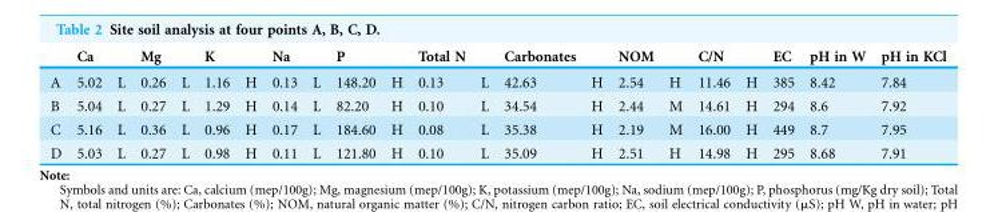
<table><thead><tr><td rowspan="2">A</td><td rowspan="2">Ca 5.02</td><td rowspan="2">L</td><td rowspan="2">Mg 0.26</td><td rowspan="2">L</td><td rowspan="2">K 1.16</td><td rowspan="2">H</td><td rowspan="2">Na 0.13</td><td rowspan="2">L</td><td rowspan="2">P 148.20</td><td rowspan="2">H</td><td rowspan="2">Total N 0.13</td><td rowspan="2">L</td><td rowspan="2">Carbonates 42.63</td><td rowspan="2">H</td><td rowspan="2">NOM 2.54</td><td rowspan="2">H</td><td colspan="2">C/N</td><td rowspan="2">EC 385</td><td rowspan="2">pH in W 8.42</td><td rowspan="2">pH in KCl 7.84</td></tr><tr><td>11.46</td><td>H</td></tr></thead><tbody><tr><td>B</td><td>5.04</td><td>L</td><td>0.27</td><td>L</td><td>1.29</td><td>H</td><td>0.14</td><td>L</td><td>82.20</td><td>H</td><td>0.10</td><td>L</td><td>34.54</td><td>H</td><td>2.44</td><td>M</td><td>14.61</td><td>H</td><td>294</td><td>8.6</td><td>7.92</td></tr><tr><td>C</td><td>5.16</td><td>L</td><td>0.36</td><td>L</td><td>0.96</td><td>H</td><td>0.17</td><td>L</td><td>184.60</td><td>H</td><td>0.08</td><td>L</td><td>35.38</td><td>H</td><td>2.19</td><td>M</td><td>16.00</td><td>H</td><td>449</td><td>8.7</td><td>7.95</td></tr><tr><td>D</td><td>5.03</td><td>L</td><td>0.27</td><td>L</td><td>0.98</td><td>H</td><td>0.11</td><td>L</td><td>121.80</td><td>H</td><td>0.10</td><td>L</td><td>35.09</td><td>H</td><td>2.51</td><td>H</td><td>14.98</td><td>H</td><td>295</td><td>8.68</td><td>7.91</td></tr></tbody></table>